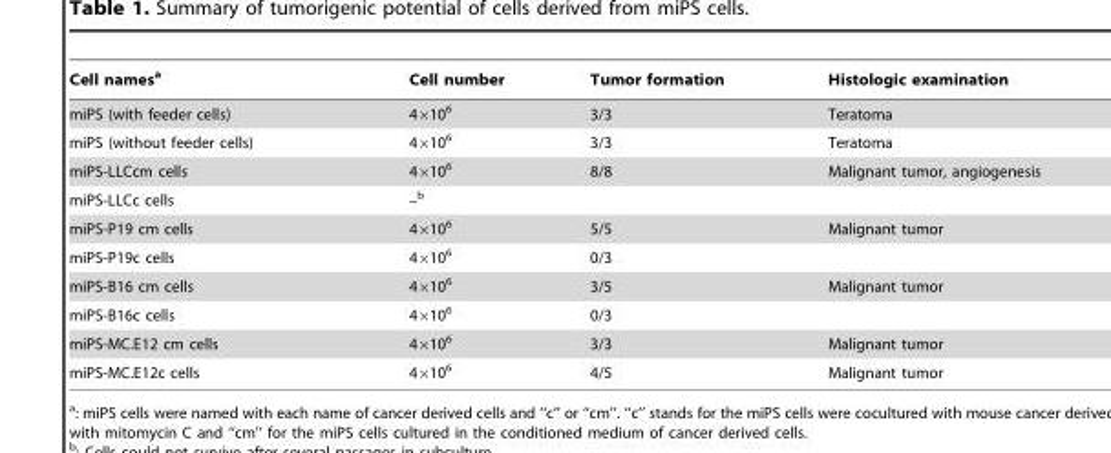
<table><thead><tr><td>Cell names<sup>a</sup></td><td>Cell number</td><td>Tumor formation</td><td>Histologic examination</td></tr></thead><tbody><tr><td>miPS (with feeder cells)</td><td>4×10<sup>6</sup></td><td>3/3</td><td>Teratoma</td></tr><tr><td>miPS (without feeder cells)</td><td>4×10<sup>6</sup></td><td>3/3</td><td>Teratoma</td></tr><tr><td>miPS-LLCcm cells</td><td>4×10<sup>6</sup></td><td>8/8</td><td>Malignant tumor, angiogenesis</td></tr><tr><td>miPS-LLCc cells</td><td>–b</td><td></td><td></td></tr><tr><td>miPS-P19 cm cells</td><td>4×10<sup>6</sup></td><td>5/5</td><td>Malignant tumor</td></tr><tr><td>miPS-P19c cells</td><td>4×10<sup>6</sup></td><td>0/3</td><td></td></tr><tr><td>miPS-B16 cm cells</td><td>4×10<sup>6</sup></td><td>3/5</td><td>Malignant tumor</td></tr><tr><td>miPS-B16c cells</td><td>4×10<sup>6</sup></td><td>0/3</td><td></td></tr><tr><td>miPS-MC.E12 cm cells</td><td>4×10<sup>6</sup></td><td>3/3</td><td>Malignant tumor</td></tr><tr><td>miPS-MC.E12c cells</td><td>4×10<sup>6</sup></td><td>4/5</td><td>Malignant tumor</td></tr></tbody></table>